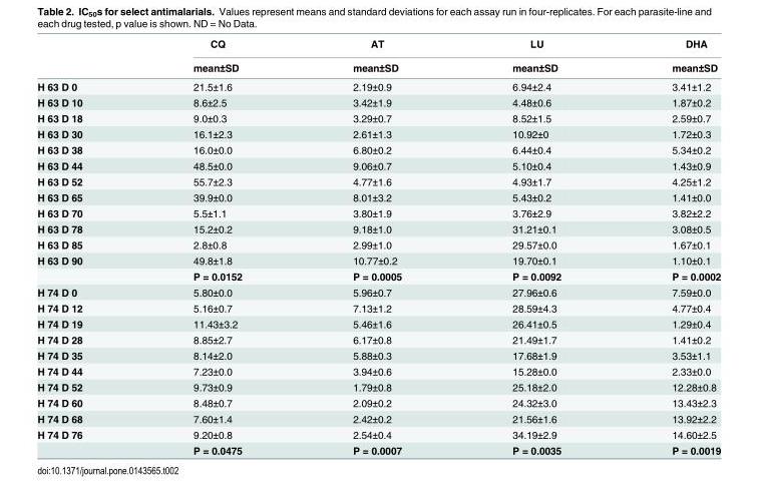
<table><thead><tr><td rowspan="2"></td><td rowspan="2">CQ mean±SD</td><td rowspan="2">AT mean±SD</td><td rowspan="2">LU mean±SD</td><td rowspan="2">DHA mean±SD</td></tr><tr></tr></thead><tbody><tr><td>H 63 D 0</td><td>21.5±1.6</td><td>2.19±0.9</td><td>6.94±2.4</td><td>3.41±1.2</td></tr><tr><td>H 63 D 10</td><td>8.6±2.5</td><td>3.42±1.9</td><td>4.48±0.6</td><td>1.87±0.2</td></tr><tr><td>H 63 D 18</td><td>9.0±0.3</td><td>3.29±0.7</td><td>8.52±1.5</td><td>2.59±0.7</td></tr><tr><td>H 63 D 30</td><td>16.1±2.3</td><td>2.61±1.3</td><td>10.92±0</td><td>1.72±0.3</td></tr><tr><td>H 63 D 38</td><td>16.0±0.0</td><td>6.80±0.2</td><td>6.44±0.4</td><td>5.34±0.2</td></tr><tr><td>H 63 D 44</td><td>48.5±0.0</td><td>9.06±0.7</td><td>5.10±0.4</td><td>1.43±0.9</td></tr><tr><td>H 63 D 52</td><td>55.7±2.3</td><td>4.77±1.6</td><td>4.93±1.7</td><td>4.25±1.2</td></tr><tr><td>H 63 D 65</td><td>39.9±0.0</td><td>8.01±3.2</td><td>5.43±0.2</td><td>1.41±0.0</td></tr><tr><td>H 63 D 70</td><td>5.5±1.1</td><td>3.80±1.9</td><td>3.76±2.9</td><td>3.82±2.2</td></tr><tr><td>H 63 D 78</td><td>15.2±0.2</td><td>9.18±1.0</td><td>31.21±0.1</td><td>3.08±0.5</td></tr><tr><td>H 63 D 85</td><td>2.8±0.8</td><td>2.99±1.0</td><td>29.57±0.0</td><td>1.67±0.1</td></tr><tr><td rowspan="2">H 63 D 90</td><td>49.8±1.8</td><td>10.77±0.2</td><td>19.70±0.1</td><td>1.10±0.1</td></tr><tr><td>P = 0.0152</td><td>P = 0.0005</td><td>P = 0.0092</td><td>P = 0.0002</td></tr><tr><td>H 74 D 0</td><td>5.80±0.0</td><td>5.96±0.7</td><td>27.96±0.6</td><td>7.59±0.0</td></tr><tr><td>H 74 D 12</td><td>5.16±0.7</td><td>7.13±1.2</td><td>28.59±4.3</td><td>4.77±0.4</td></tr><tr><td>H 74 D 19</td><td>11.43±3.2</td><td>5.46±1.6</td><td>26.41±0.5</td><td>1.29±0.4</td></tr><tr><td>H 74 D 28</td><td>8.85±2.7</td><td>6.17±0.8</td><td>21.49±1.7</td><td>1.41±0.2</td></tr><tr><td>H 74 D 35</td><td>8.14±2.0</td><td>5.88±0.3</td><td>17.68±1.9</td><td>3.53±1.1</td></tr><tr><td>H 74 D 44</td><td>7.23±0.0</td><td>3.94±0.6</td><td>15.28±0.0</td><td>2.33±0.0</td></tr><tr><td>H 74 D 52</td><td>9.73±0.9</td><td>1.79±0.8</td><td>25.18±2.0</td><td>12.28±0.8</td></tr><tr><td>H 74 D 60</td><td>8.48±0.7</td><td>2.09±0.2</td><td>24.32±3.0</td><td>13.43±2.3</td></tr><tr><td>H 74 D 68</td><td>7.60±1.4</td><td>2.42±0.2</td><td>21.56±1.6</td><td>13.92±2.2</td></tr><tr><td rowspan="2">H 74 D 76</td><td>9.20±0.8</td><td>2.54±0.4</td><td>34.19±2.9</td><td>14.60±2.5</td></tr><tr><td>P = 0.0475</td><td>P = 0.0007</td><td>P = 0.0035</td><td>P = 0.0019</td></tr></tbody></table>